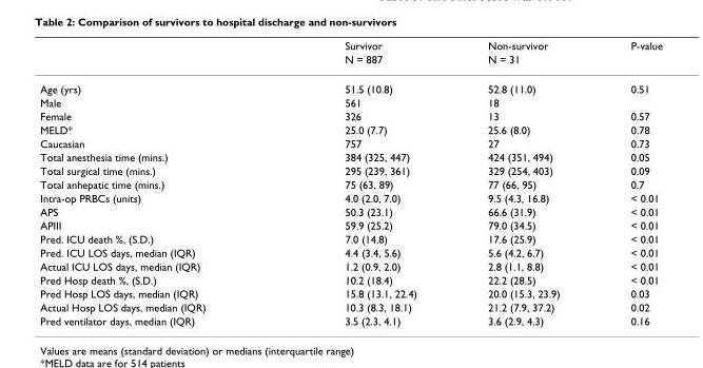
<table><thead><tr><td rowspan="2"></td><td rowspan="2">Survivor N = 887</td><td rowspan="2">Non-survivor N = 31</td><td rowspan="2">P-value</td></tr><tr></tr></thead><tbody><tr><td>Age (yrs)</td><td>51.5 (10.8)</td><td>52.8 (11.0)</td><td>0.51</td></tr><tr><td>Male</td><td>561</td><td>18</td><td></td></tr><tr><td>Female</td><td>326</td><td>13</td><td>0.57</td></tr><tr><td>MELD*</td><td>25.0 (7.7)</td><td>25.6 (8.0)</td><td>0.78</td></tr><tr><td>Caucasian</td><td>757</td><td>27</td><td>0.73</td></tr><tr><td>Total anesthesia time (mins.)</td><td>384 (325, 447)</td><td>424 (351, 494)</td><td>0.05</td></tr><tr><td>Total surgical time (mins.)</td><td>295 (239, 361)</td><td>329 (254, 403)</td><td>0.09</td></tr><tr><td>Total anhepatic time (mins.)</td><td>75 (63, 89)</td><td>77 (66, 95)</td><td>0.7</td></tr><tr><td>Intra-op PRBCs (units)</td><td>4.0 (2.0, 7.0)</td><td>9.5 (4.3, 16.8)</td><td>&lt; 0.01</td></tr><tr><td>APS</td><td>50.3 (23.1)</td><td>66.6 (31.9)</td><td>&lt; 0.01</td></tr><tr><td>APIII</td><td>59.9 (25.2)</td><td>79.0 (34.5)</td><td>&lt; 0.01</td></tr><tr><td>Pred. ICU death %, (S.D.)</td><td>7.0 (14.8)</td><td>17.6 (25.9)</td><td>&lt; 0.01</td></tr><tr><td>Pred. ICU LOS days, median (IQR)</td><td>4.4 (3.4, 5.6)</td><td>5.6 (4.2, 6.7)</td><td>&lt; 0.01</td></tr><tr><td>Actual ICU LOS days, median (IQR)</td><td>1.2 (0.9, 2.0)</td><td>2.8 (1.1, 8.8)</td><td>&lt; 0.01</td></tr><tr><td>Pred Hosp death %, (S.D.)</td><td>10.2 (18.4)</td><td>22.2 (28.5)</td><td>&lt; 0.01</td></tr><tr><td>Pred Hosp LOS days, median (IQR)</td><td>15.8 (13.1, 22.4)</td><td>20.0 (15.3, 23.9)</td><td>0.03</td></tr><tr><td>Actual Hosp LOS days, median (IQR)</td><td>10.3 (8.3, 18.1)</td><td>21.2 (7.9, 37.2)</td><td>0.02</td></tr><tr><td>Pred ventilator days, median (IQR)</td><td>3.5 (2.3, 4.1)</td><td>3.6 (2.9, 4.3)</td><td>0.16</td></tr></tbody></table>